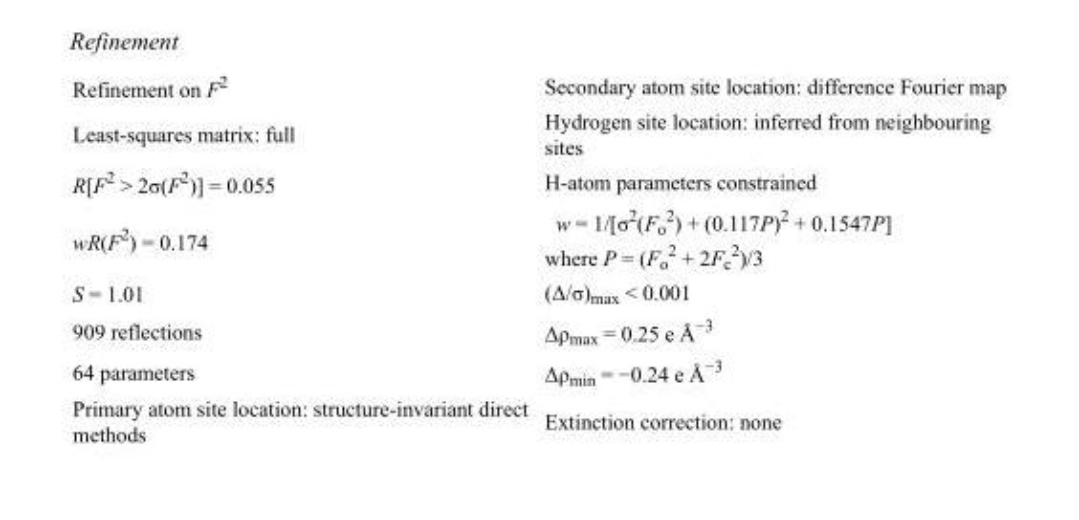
<table><tbody><tr><td>Refinement on F<sup>2</sup></td><td>Secondary atom site location: difference Fourier map</td></tr><tr><td>Least-squares matrix: full</td><td>Hydrogen site location: inferred from neighbouring sites</td></tr><tr><td>R[F<sup>2</sup> &gt; 2σ(F<sup>2</sup>)] = 0.055</td><td>H-atom parameters constrained</td></tr><tr><td>wR(F<sup>2</sup>) = 0.174</td><td>w = 1/[σ<sup>2</sup>(F<sub>o</sub> <sup>2</sup>) + (0.117P)<sup>2</sup> + 0.1547P] where P = (F<sub>o</sub> <sup>2</sup> + 2F<sub>c</sub> <sup>2</sup>)/3</td></tr><tr><td>S = 1.01</td><td>(Δ/σ)<sub>max</sub> &lt; 0.001</td></tr><tr><td>909 reflections</td><td>Δρ<sub>max</sub> = 0.25 e Å<sup>−3</sup></td></tr><tr><td>64 parameters</td><td>Δρ<sub>min</sub> = −0.24 e Å<sup>−3</sup></td></tr><tr><td>Primary atom site location: structure-invariant direct methods</td><td>Extinction correction: none</td></tr></tbody></table>